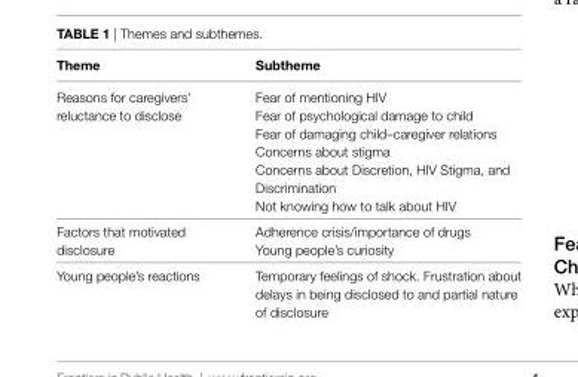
<table><thead><tr><td>Theme</td><td>subtheme</td></tr></thead><tbody><tr><td rowspan="6">Reasons for caregivers’ reluctance to disclose</td><td>Fear of mentioning HIV</td></tr><tr><td>Fear of psychological damage to child</td></tr><tr><td>Fear of damaging child–caregiver relations</td></tr><tr><td>Concerns about stigma</td></tr><tr><td>Concerns about Discretion, HIV Stigma, and Discrimination</td></tr><tr><td>Not knowing how to talk about HIV</td></tr><tr><td rowspan="2">Factors that motivated disclosure</td><td>Adherence crisis/importance of drugs</td></tr><tr><td>Young people’s curiosity</td></tr><tr><td>Young people’s reactions</td><td>Temporary feelings of shock. Frustration about delays in being disclosed to and partial nature of disclosure</td></tr></tbody></table>